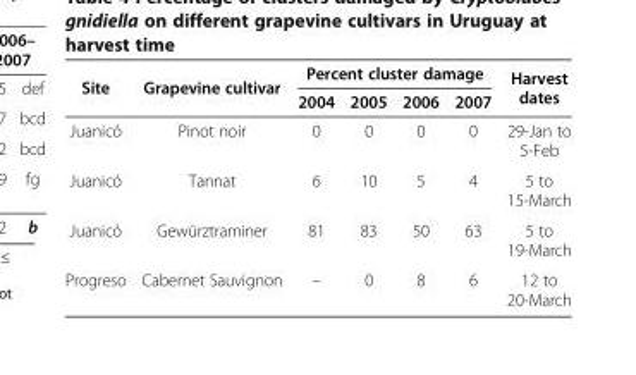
<table><thead><tr><td rowspan="2">Site</td><td rowspan="2">Grapevine cultivar</td><td colspan="4">Percent cluster damage</td><td rowspan="2">Harvest dates</td></tr><tr><td>2004</td><td>2005</td><td>2006</td><td>2007</td></tr></thead><tbody><tr><td>Juanicó</td><td>Pinot noir</td><td>0</td><td>0</td><td>0</td><td>0</td><td>29-Jan to 5-Feb</td></tr><tr><td>Juanicó</td><td>Tannat</td><td>6</td><td>10</td><td>5</td><td>4</td><td>5 to 15-March</td></tr><tr><td>Juanicó</td><td>Gewürztraminer</td><td>81</td><td>83</td><td>50</td><td>63</td><td>5 to 19-March</td></tr><tr><td>Progreso</td><td>Cabernet Sauvignon</td><td>–</td><td>0</td><td>8</td><td>6</td><td>12 to 20-March</td></tr></tbody></table>